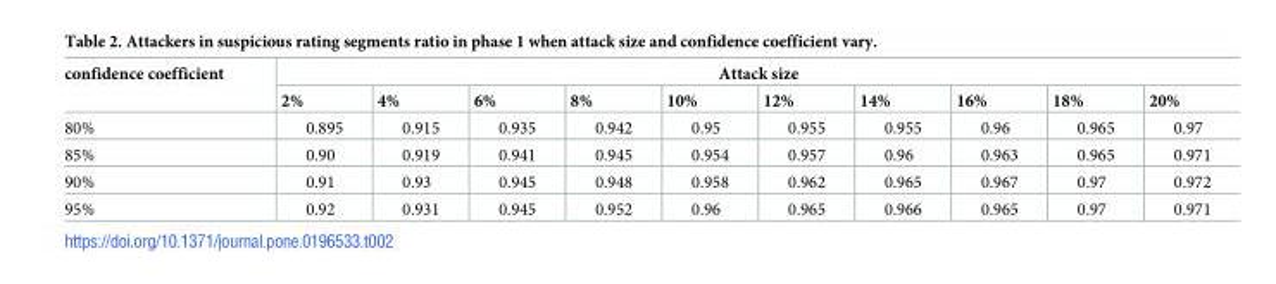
<table><thead><tr><td rowspan="2">confidence coefficient</td><td colspan="10">Attack size</td></tr><tr><td>2%</td><td>4%</td><td>6%</td><td>8%</td><td>10%</td><td>12%</td><td>14%</td><td>16%</td><td>18%</td><td>20%</td></tr></thead><tbody><tr><td>80%</td><td>0.895</td><td>0.915</td><td>0.935</td><td>0.942</td><td>0.95</td><td>0.955</td><td>0.955</td><td>0.96</td><td>0.965</td><td>0.97</td></tr><tr><td>85%</td><td>0.90</td><td>0.919</td><td>0.941</td><td>0.945</td><td>0.954</td><td>0.957</td><td>0.96</td><td>0.963</td><td>0.965</td><td>0.971</td></tr><tr><td>90%</td><td>0.91</td><td>0.93</td><td>0.945</td><td>0.948</td><td>0.958</td><td>0.962</td><td>0.965</td><td>0.967</td><td>0.97</td><td>0.972</td></tr><tr><td>95%</td><td>0.92</td><td>0.931</td><td>0.945</td><td>0.952</td><td>0.96</td><td>0.965</td><td>0.966</td><td>0.965</td><td>0.97</td><td>0.971</td></tr></tbody></table>